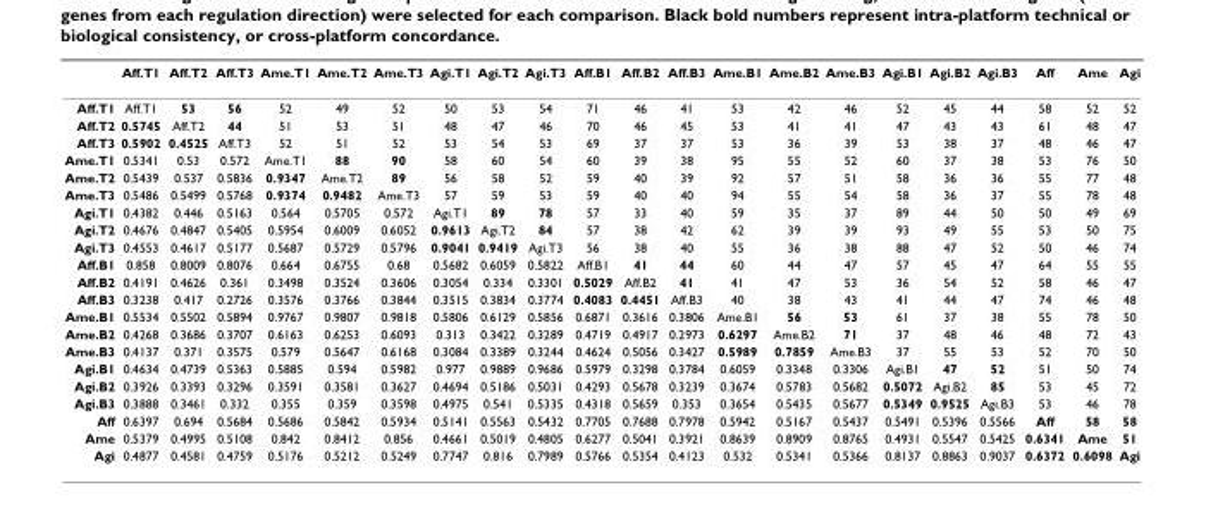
<table><thead><tr><td></td><td>Aff.T1</td><td>Aff.T2</td><td>Aff.T3</td><td>Ame.T1</td><td>Ame.T2</td><td>Ame.T3</td><td>Agi.T1</td><td>Agi.T2</td><td>Agi.T3</td><td>Aff.B1</td><td>Aff.B2</td><td>Aff.B3</td><td>Ame.B1</td><td>Ame.B2</td><td>Ame.B3</td><td>Agi.B1</td><td>Agi.B2</td><td>Agi.B3</td><td>Aff</td><td>Ame</td><td>Agi</td></tr></thead><tbody><tr><td>Aff.T1</td><td>Aff.T1</td><td>53</td><td>56</td><td>52</td><td>49</td><td>52</td><td>50</td><td>53</td><td>54</td><td>71</td><td>46</td><td>41</td><td>53</td><td>42</td><td>46</td><td>52</td><td>45</td><td>44</td><td>58</td><td>52</td><td>52</td></tr><tr><td>Aff.T2</td><td>0.5745</td><td>Aff.T2</td><td>44</td><td>51</td><td>53</td><td>51</td><td>48</td><td>47</td><td>46</td><td>70</td><td>46</td><td>45</td><td>53</td><td>41</td><td>41</td><td>47</td><td>43</td><td>43</td><td>61</td><td>48</td><td>47</td></tr><tr><td>Aff.T3</td><td>0.5902</td><td>0.4525</td><td>Aff.T3</td><td>52</td><td>51</td><td>52</td><td>53</td><td>54</td><td>53</td><td>69</td><td>37</td><td>37</td><td>53</td><td>36</td><td>39</td><td>53</td><td>38</td><td>37</td><td>48</td><td>46</td><td>47</td></tr><tr><td>Ame.T1</td><td>0.5341</td><td>0.53</td><td>0.572</td><td>Ame.T1</td><td>88</td><td>90</td><td>58</td><td>60</td><td>54</td><td>60</td><td>39</td><td>38</td><td>95</td><td>55</td><td>52</td><td>60</td><td>37</td><td>38</td><td>53</td><td>76</td><td>50</td></tr><tr><td>Ame.T2</td><td>0.5439</td><td>0.537</td><td>0.5836</td><td>0.9347</td><td>Ame.T2</td><td>89</td><td>56</td><td>58</td><td>52</td><td>59</td><td>40</td><td>39</td><td>92</td><td>57</td><td>51</td><td>58</td><td>36</td><td>36</td><td>55</td><td>77</td><td>48</td></tr><tr><td>Ame.T3</td><td>0.5486</td><td>0.5499</td><td>0.5768</td><td>0.9374</td><td>0.9482</td><td>Ame.T3</td><td>57</td><td>59</td><td>53</td><td>59</td><td>40</td><td>40</td><td>94</td><td>55</td><td>54</td><td>58</td><td>36</td><td>37</td><td>55</td><td>78</td><td>48</td></tr><tr><td>Agi.T1</td><td>0.4382</td><td>0.446</td><td>0.5163</td><td>0.564</td><td>0.5705</td><td>0.572</td><td>Agi.T1</td><td>89</td><td>78</td><td>57</td><td>33</td><td>40</td><td>59</td><td>35</td><td>37</td><td>89</td><td>44</td><td>50</td><td>50</td><td>49</td><td>69</td></tr><tr><td>Agi.T2</td><td>0.4676</td><td>0.4847</td><td>0.5405</td><td>0.5954</td><td>0.6009</td><td>0.6052</td><td>0.9613</td><td>Agi.T2</td><td>84</td><td>57</td><td>38</td><td>42</td><td>62</td><td>39</td><td>39</td><td>93</td><td>49</td><td>55</td><td>53</td><td>50</td><td>75</td></tr><tr><td>Agi.T3</td><td>0.4553</td><td>0.4617</td><td>0.5177</td><td>0.5687</td><td>0.5729</td><td>0.5796</td><td>0.9041</td><td>0.9419</td><td>Agi.T3</td><td>56</td><td>38</td><td>40</td><td>55</td><td>36</td><td>38</td><td>88</td><td>47</td><td>52</td><td>50</td><td>46</td><td>74</td></tr><tr><td>Aff.B1</td><td>0.858</td><td>0.8009</td><td>0.8076</td><td>0.664</td><td>0.6755</td><td>0.68</td><td>0.5682</td><td>0.6059</td><td>0.5822</td><td>Aff.B1</td><td>41</td><td>44</td><td>60</td><td>44</td><td>47</td><td>57</td><td>45</td><td>47</td><td>64</td><td>55</td><td>55</td></tr><tr><td>Aff.B2</td><td>0.4191</td><td>0.4626</td><td>0.361</td><td>0.3498</td><td>0.3524</td><td>0.3606</td><td>0.3054</td><td>0.334</td><td>0.3301</td><td>0.5029</td><td>Aff.B2</td><td>41</td><td>41</td><td>47</td><td>53</td><td>36</td><td>54</td><td>52</td><td>58</td><td>46</td><td>47</td></tr><tr><td>Aff.B3</td><td>0.3238</td><td>0.417</td><td>0.2726</td><td>0.3576</td><td>0.3766</td><td>0.3844</td><td>0.3515</td><td>0.3834</td><td>0.3774</td><td>0.4083</td><td>0.4451</td><td>Aff.B3</td><td>40</td><td>38</td><td>43</td><td>41</td><td>44</td><td>47</td><td>74</td><td>46</td><td>48</td></tr><tr><td>Ame.B1</td><td>0.5534</td><td>0.5502</td><td>0.5894</td><td>0.9767</td><td>0.9807</td><td>0.9818</td><td>0.5806</td><td>0.6129</td><td>0.5856</td><td>0.6871</td><td>0.3616</td><td>0.3806</td><td>Ame.B1</td><td>56</td><td>53</td><td>61</td><td>37</td><td>38</td><td>55</td><td>78</td><td>50</td></tr><tr><td>Ame.B2</td><td>0.4268</td><td>0.3686</td><td>0.3707</td><td>0.6163</td><td>0.6253</td><td>0.6093</td><td>0.313</td><td>0.3422</td><td>0.3289</td><td>0.4719</td><td>0.4917</td><td>0.2973</td><td>0.6297</td><td>Ame.B2</td><td>71</td><td>37</td><td>48</td><td>46</td><td>48</td><td>72</td><td>43</td></tr><tr><td>Ame.B3</td><td>0.4137</td><td>0.371</td><td>0.3575</td><td>0.579</td><td>0.5647</td><td>0.6168</td><td>0.3084</td><td>0.3389</td><td>0.3244</td><td>0.4624</td><td>0.5056</td><td>0.3427</td><td>0.5989</td><td>0.7859</td><td>Ame.B3</td><td>37</td><td>55</td><td>53</td><td>52</td><td>70</td><td>50</td></tr><tr><td>Agi.B1</td><td>0.4634</td><td>0.4739</td><td>0.5363</td><td>0.5885</td><td>0.594</td><td>0.5982</td><td>0.977</td><td>0.9889</td><td>0.9686</td><td>0.5979</td><td>0.3298</td><td>0.3784</td><td>0.6059</td><td>0.3348</td><td>0.3306</td><td>Agi.B1</td><td>47</td><td>52</td><td>51</td><td>50</td><td>74</td></tr><tr><td>Agi.B2</td><td>0.3926</td><td>0.3393</td><td>0.3296</td><td>0.3591</td><td>0.3581</td><td>0.3627</td><td>0.4694</td><td>0.5186</td><td>0.5031</td><td>0.4293</td><td>0.5678</td><td>0.3239</td><td>0.3674</td><td>0.5783</td><td>0.5682</td><td>0.5072</td><td>Agi.B2</td><td>85</td><td>53</td><td>45</td><td>72</td></tr><tr><td>Agi.B3</td><td>0.3888</td><td>0.3461</td><td>0.332</td><td>0.355</td><td>0.359</td><td>0.3598</td><td>0.4975</td><td>0.541</td><td>0.5335</td><td>0.4318</td><td>0.5659</td><td>0.353</td><td>0.3654</td><td>0.5435</td><td>0.5677</td><td>0.5349</td><td>0.9525</td><td>Agi.B3</td><td>53</td><td>46</td><td>78</td></tr><tr><td>Aff</td><td>0.6397</td><td>0.694</td><td>0.5684</td><td>0.5686</td><td>0.5842</td><td>0.5934</td><td>0.5141</td><td>0.5563</td><td>0.5432</td><td>0.7705</td><td>0.7688</td><td>0.7978</td><td>0.5942</td><td>0.5167</td><td>0.5437</td><td>0.5491</td><td>0.5396</td><td>0.5566</td><td>Aff</td><td>58</td><td>58</td></tr><tr><td>Ame</td><td>0.5379</td><td>0.4995</td><td>0.5108</td><td>0.842</td><td>0.8412</td><td>0.856</td><td>0.4661</td><td>0.5019</td><td>0.4805</td><td>0.6277</td><td>0.5041</td><td>0.3921</td><td>0.8639</td><td>0.8909</td><td>0.8765</td><td>0.4931</td><td>0.5547</td><td>0.5425</td><td>0.6341</td><td>Ame</td><td>51</td></tr><tr><td>Agi</td><td>0.4877</td><td>0.4581</td><td>0.4759</td><td>0.5176</td><td>0.5212</td><td>0.5249</td><td>0.7747</td><td>0.816</td><td>0.7989</td><td>0.5766</td><td>0.5354</td><td>0.4123</td><td>0.532</td><td>0.5341</td><td>0.5366</td><td>0.8137</td><td>0.8863</td><td>0.9037</td><td>0.6372</td><td>0.6098</td><td>Agi</td></tr></tbody></table>